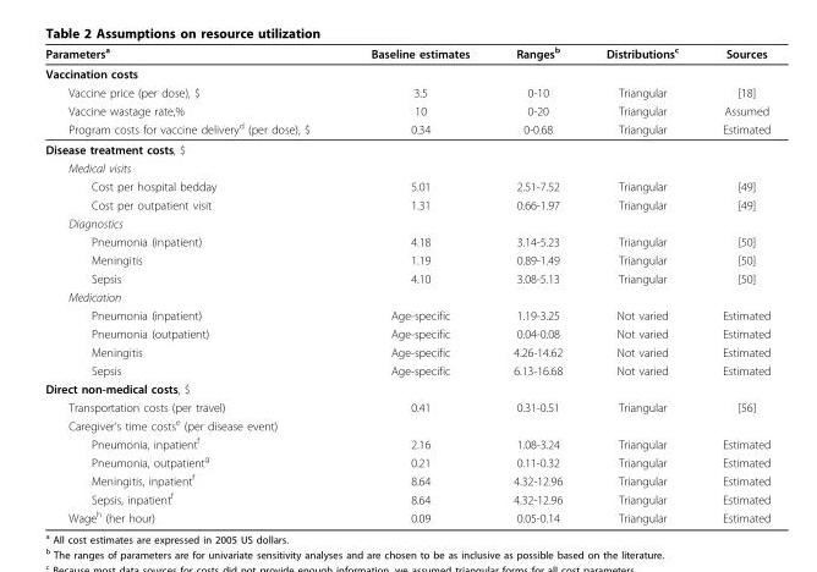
<table><thead><tr><td>Parameters<sup>a</sup></td><td>Baseline estimates</td><td>Ranges<sup>b</sup></td><td>Distributions<sup>c</sup></td><td>Sources</td></tr></thead><tbody><tr><td colspan="5">Vaccination costs</td></tr><tr><td>Vaccine price (per dose), $</td><td>3.5</td><td>0-10</td><td>Triangular</td><td>[18]</td></tr><tr><td>Vaccine wastage rate,%</td><td>10</td><td>0-20</td><td>Triangular</td><td>Assumed</td></tr><tr><td>Program costs for vaccine delivery<sup>d</sup> (per dose), $</td><td>0.34</td><td>0-0.68</td><td>Triangular</td><td>Estimated</td></tr><tr><td colspan="5">Disease treatment costs, $</td></tr><tr><td colspan="5">Medical visits</td></tr><tr><td>Cost per hospital bedday</td><td>5.01</td><td>2.51-7.52</td><td>Triangular</td><td>[49]</td></tr><tr><td>Cost per outpatient visit</td><td>1.31</td><td>0.66-1.97</td><td>Triangular</td><td>[49]</td></tr><tr><td colspan="5">Diagnostics</td></tr><tr><td>Pneumonia (inpatient)</td><td>4.18</td><td>3.14-5.23</td><td>Triangular</td><td>[50]</td></tr><tr><td>Meningitis</td><td>1.19</td><td>0.89-1.49</td><td>Triangular</td><td>[50]</td></tr><tr><td>Sepsis</td><td>4.10</td><td>3.08-5.13</td><td>Triangular</td><td>[50]</td></tr><tr><td colspan="5">Medication</td></tr><tr><td>Pneumonia (inpatient)</td><td>Age-specific</td><td>1.19-3.25</td><td>Not varied</td><td>Estimated</td></tr><tr><td>Pneumonia (outpatient)</td><td>Age-specific</td><td>0.04-0.08</td><td>Not varied</td><td>Estimated</td></tr><tr><td>Meningitis</td><td>Age-specific</td><td>4.26-14.62</td><td>Not varied</td><td>Estimated</td></tr><tr><td>Sepsis</td><td>Age-specific</td><td>6.13-16.68</td><td>Not varied</td><td>Estimated</td></tr><tr><td colspan="5">Direct non-medical costs, $</td></tr><tr><td>Transportation costs (per travel)</td><td>0.41</td><td>0.31-0.51</td><td>Triangular</td><td>[56]</td></tr><tr><td colspan="5">Caregiver’s time costs<sup>e</sup> (per disease event)</td></tr><tr><td>Pneumonia, inpatient<sup>f</sup></td><td>2.16</td><td>1.08-3.24</td><td>Triangular</td><td>Estimated</td></tr><tr><td>Pneumonia, outpatient<sup>g</sup></td><td>0.21</td><td>0.11-0.32</td><td>Triangular</td><td>Estimated</td></tr><tr><td>Meningitis, inpatient<sup>f</sup></td><td>8.64</td><td>4.32-12.96</td><td>Triangular</td><td>Estimated</td></tr><tr><td>Sepsis, inpatient<sup>f</sup></td><td>8.64</td><td>4.32-12.96</td><td>Triangular</td><td>Estimated</td></tr><tr><td>Wage<sup>h</sup> (her hour)</td><td>0.09</td><td>0.05-0.14</td><td>Triangular</td><td>Estimated</td></tr></tbody></table>